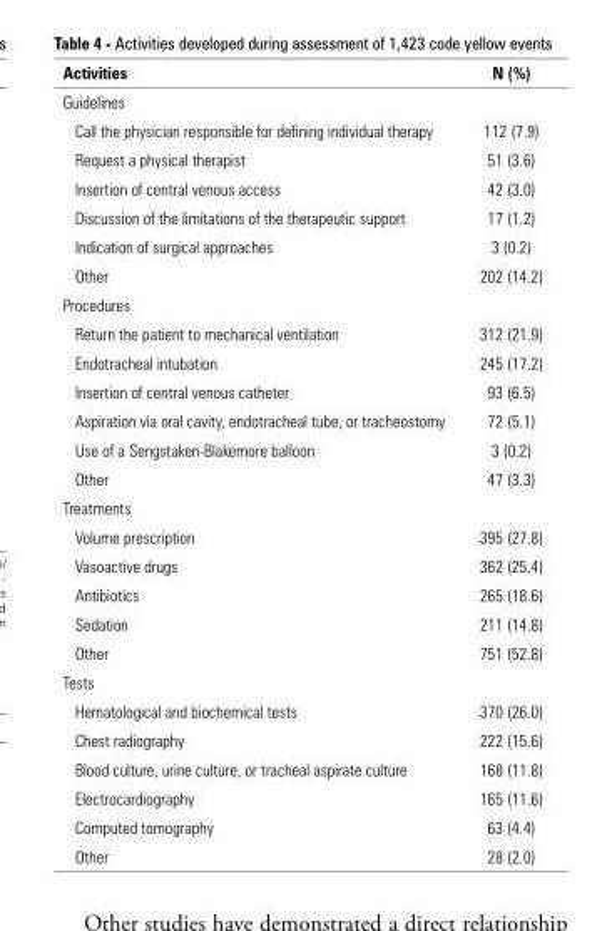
<table><thead><tr><td>Activities</td><td>N (%)</td></tr></thead><tbody><tr><td colspan="2">Guidelines</td></tr><tr><td>Call the physician responsible for defining individual therapy</td><td>112 (7.9)</td></tr><tr><td>Request a physical therapist</td><td>51 (3.6)</td></tr><tr><td>Insertion of central venous access</td><td>42 (3.0)</td></tr><tr><td>Discussion of the limitations of the therapeutic support</td><td>17 (1.2)</td></tr><tr><td>Indication of surgical approaches</td><td>3 (0.2)</td></tr><tr><td>Other</td><td>202 (14.2)</td></tr><tr><td colspan="2">Procedures</td></tr><tr><td>Return the patient to mechanical ventilation</td><td>312 (21.9)</td></tr><tr><td>Endotracheal intubation</td><td>245 (17.2)</td></tr><tr><td>Insertion of central venous catheter</td><td>93 (6.5)</td></tr><tr><td>Aspiration via oral cavity, endotracheal tube, or tracheostomy</td><td>72 (5.1)</td></tr><tr><td>Use of a Sengstaken-Blakemore balloon</td><td>3 (0.2)</td></tr><tr><td>Other</td><td>47 (3.3)</td></tr><tr><td colspan="2">Treatments</td></tr><tr><td>Volume prescription</td><td>395 (27.8)</td></tr><tr><td>Vasoactive drugs</td><td>362 (25.4)</td></tr><tr><td>Antibiotics</td><td>265 (18.6)</td></tr><tr><td>Sedation</td><td>211 (14.8)</td></tr><tr><td>Other</td><td>751 (52.8)</td></tr><tr><td colspan="2">Tests</td></tr><tr><td>Hematological and biochemical tests</td><td>370 (26.0)</td></tr><tr><td>Chest radiography</td><td>222 (15.6)</td></tr><tr><td>Blood culture, urine culture, or tracheal aspirate culture</td><td>168 (11.8)</td></tr><tr><td>Electrocardiography</td><td>165 (11.6)</td></tr><tr><td>Computed tomography</td><td>63 (4.4)</td></tr><tr><td>Other</td><td>28 (2.0)</td></tr></tbody></table>